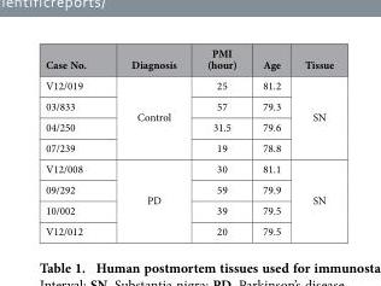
<table><thead><tr><td>Case No.</td><td>Diagnosis</td><td>PMI (hour)</td><td>Age</td><td>Tissue</td></tr></thead><tbody><tr><td>V12/019</td><td rowspan="4">Control</td><td>25</td><td>81.2</td><td rowspan="4">SN</td></tr><tr><td>03/833</td><td>57</td><td>79.3</td></tr><tr><td>04/250</td><td>31.5</td><td>79.6</td></tr><tr><td>07/239</td><td>19</td><td>78.8</td></tr><tr><td>V12/008</td><td rowspan="4">PD</td><td>30</td><td>81.1</td><td rowspan="4">SN</td></tr><tr><td>09/292</td><td>59</td><td>79.9</td></tr><tr><td>10/002</td><td>39</td><td>79.5</td></tr><tr><td>V12/012</td><td>20</td><td>79.5</td></tr></tbody></table>